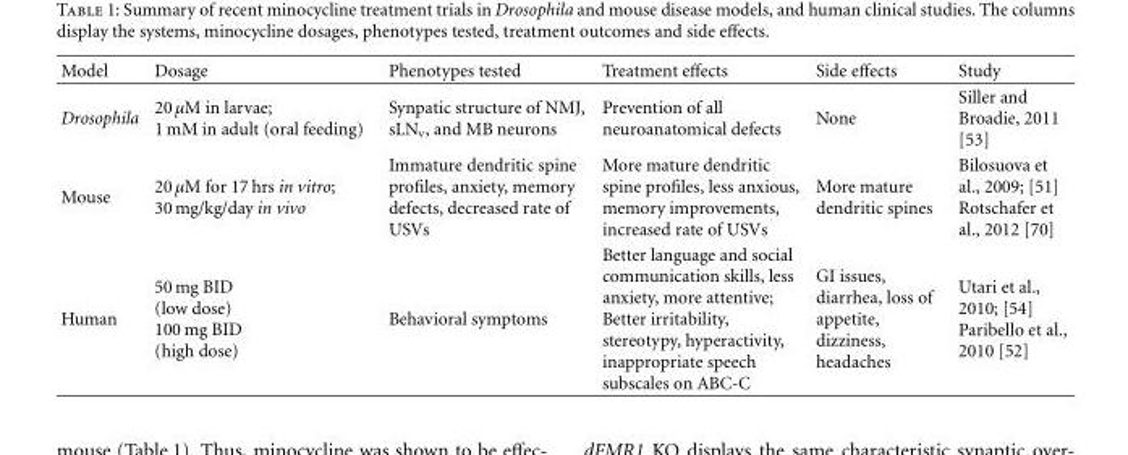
<table><thead><tr><td>Model</td><td>Dosage</td><td>Phenotypes tested</td><td>Treatment effects</td><td>Side effects</td><td>Study</td></tr></thead><tbody><tr><td>Drosophila</td><td>20 μM in larvae; 1 mM in adult (oral feeding)</td><td>Synpatic structure of NMJ, sLN<sub>v</sub>, and MB neurons</td><td>Prevention of all neuroanatomical defects</td><td>None</td><td>Siller and Broadie, 2011 [53]</td></tr><tr><td>Mouse</td><td>20 μM for 17 hrs in vitro; 30 mg/kg/day in vivo</td><td>Immature dendritic spine profiles, anxiety, memory defects, decreased rate of USVs</td><td>More mature dendritic spine profiles, less anxious, memory improvements, increased rate of USVs</td><td>More mature dendritic spines</td><td>Bilosuova et al., 2009; [51] Rotschafer et al., 2012 [70]</td></tr><tr><td>Human</td><td>50 mg BID (low dose) 100 mg BID (high dose)</td><td>Behavioral symptoms</td><td>Better language and social communication skills, less anxiety, more attentive; Better irritability, stereotypy, hyperactivity, inappropriate speech subscales on ABC-C</td><td>GI issues, diarrhea, loss of appetite, dizziness, headaches</td><td>Utari et al., 2010; [54] Paribello et al., 2010 [52]</td></tr></tbody></table>